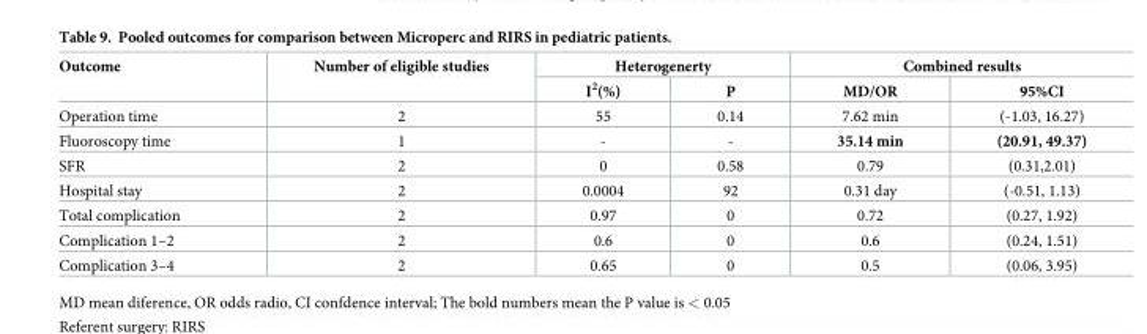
<table><thead><tr><td rowspan="2">Outcome</td><td rowspan="2">Number of eligible studies</td><td colspan="2">Heterogenerty</td><td colspan="2">Combined results</td></tr><tr><td>I<sup>2</sup>(%)</td><td>P</td><td>MD/OR</td><td>95%CI</td></tr></thead><tbody><tr><td>Operation time</td><td>2</td><td>55</td><td>0.14</td><td>7.62 min</td><td>(-1.03, 16.27)</td></tr><tr><td>Fluoroscopy time</td><td>1</td><td>-</td><td>-</td><td>35.14 min</td><td>(20.91, 49.37)</td></tr><tr><td>SFR</td><td>2</td><td>0</td><td>0.58</td><td>0.79</td><td>(0.31,2.01)</td></tr><tr><td>Hospital stay</td><td>2</td><td>0.0004</td><td>92</td><td>0.31 day</td><td>(-0.51, 1.13)</td></tr><tr><td>Total complication</td><td>2</td><td>0.97</td><td>0</td><td>0.72</td><td>(0.27, 1.92)</td></tr><tr><td>Complication 1–2</td><td>2</td><td>0.6</td><td>0</td><td>0.6</td><td>(0.24, 1.51)</td></tr><tr><td>Complication 3–4</td><td>2</td><td>0.65</td><td>0</td><td>0.5</td><td>(0.06, 3.95)</td></tr></tbody></table>